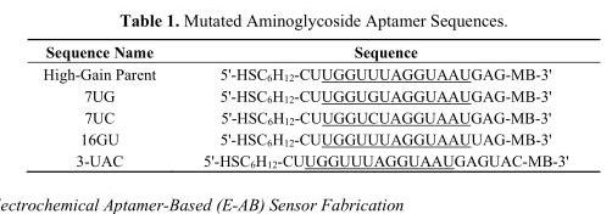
<table><thead><tr><td>Sequence Name</td><td>Sequence</td></tr></thead><tbody><tr><td>High-Gain Parent</td><td>5&#x27;-HSC<sub>6</sub>H<sub>12</sub>-CUUGGUUUAGGUAAUGAG-MB-3&#x27;</td></tr><tr><td>7UG</td><td>5&#x27;-HSC<sub>6</sub>H<sub>12</sub>-CUUGGUGUAGGUAAUGAG-MB-3&#x27;</td></tr><tr><td>7UC</td><td>5&#x27;-HSC<sub>6</sub>H<sub>12</sub>-CUUGGUCUAGGUAAUGAG-MB-3&#x27;</td></tr><tr><td>16GU</td><td>5&#x27;-HSC<sub>6</sub>H<sub>12</sub>-CUUGGUUUAGGUAAUUAG-MB-3&#x27;</td></tr><tr><td>3-UAC</td><td>5&#x27;-HSC<sub>6</sub>H<sub>12</sub>-CUUGGUUUAGGUAAUGAGUAC-MB-3&#x27;</td></tr></tbody></table>